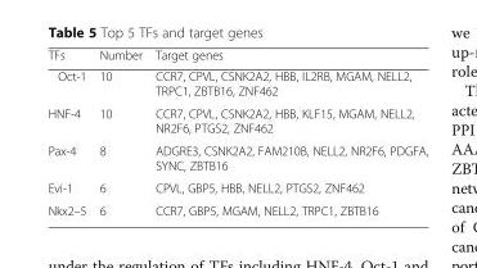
<table><thead><tr><td>TFs</td><td>Number</td><td>Target genes</td></tr></thead><tbody><tr><td>Oct-1</td><td>10</td><td>CCR7, CPVL, CSNK2A2, HBB, IL2RB, MGAM, NELL2, TRPC1, ZBTB16, ZNF462</td></tr><tr><td>HNF-4</td><td>10</td><td>CCR7, CPVL, CSNK2A2, HBB, KLF15, MGAM, NELL2, NR2F6, PTGS2, ZNF462</td></tr><tr><td>Pax-4</td><td>8</td><td>ADGRE3, CSNK2A2, FAM210B, NELL2, NR2F6, PDGFA, SYNC, ZBTB16</td></tr><tr><td>Evi-1</td><td>6</td><td>CPVL, GBP5, HBB, NELL2, PTGS2, ZNF462</td></tr><tr><td>Nkx2–5</td><td>6</td><td>CCR7, GBP5, MGAM, NELL2, TRPC1, ZBTB16</td></tr></tbody></table>